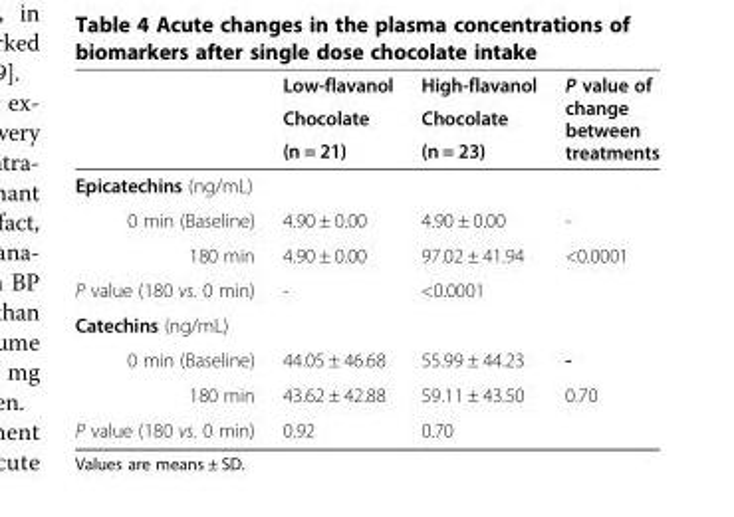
<table><thead><tr><td rowspan="3"></td><td rowspan="3">Low-flavanol Chocolate (n = 21)</td><td rowspan="3">High-flavanol Chocolate (n = 23)</td><td rowspan="3">P value of change between treatments</td></tr><tr></tr><tr></tr></thead><tbody><tr><td colspan="4">Epicatechins (ng/mL)</td></tr><tr><td>0 min (Baseline)</td><td>4.90 ± 0.00</td><td>4.90 ± 0.00</td><td>-</td></tr><tr><td>180 min</td><td>4.90 ± 0.00</td><td>97.02 ± 41.94</td><td>&lt;0.0001</td></tr><tr><td>P value (180 vs. 0 min)</td><td>-</td><td>&lt;0.0001</td><td></td></tr><tr><td colspan="4">Catechins (ng/mL)</td></tr><tr><td>0 min (Baseline)</td><td>44.05 ± 46.68</td><td>55.99 ± 44.23</td><td>-</td></tr><tr><td>180 min</td><td>43.62 ± 42.88</td><td>59.11 ± 43.50</td><td>0.70</td></tr><tr><td>P value (180 vs. 0 min)</td><td>0.92</td><td>0.70</td><td></td></tr></tbody></table>